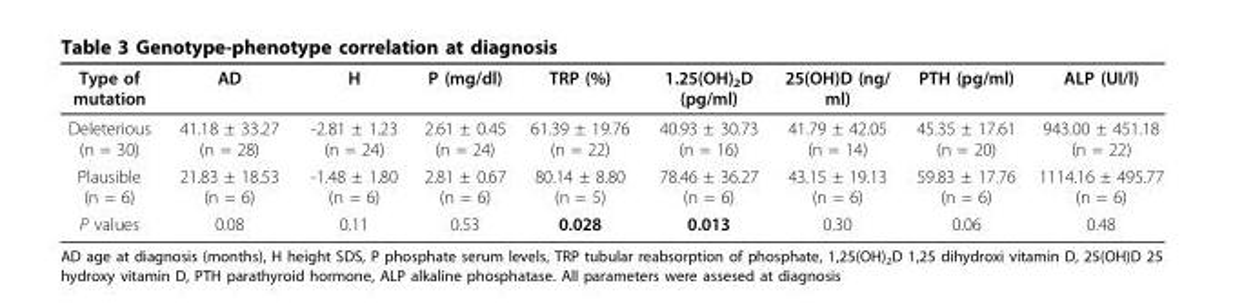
<table><thead><tr><td>Type of mutation</td><td>AD</td><td>H</td><td>P (mg/dl)</td><td>TRP (%)</td><td>1.25(OH)<sub>2</sub>D (pg/ml)</td><td>25(OH)D (ng/ ml)</td><td>PTH (pg/ml)</td><td>ALP (UI/l)</td></tr></thead><tbody><tr><td>Deleterious (n = 30)</td><td>41.18 ± 33.27 (n = 28)</td><td>-2.81 ± 1.23 (n = 24)</td><td>2.61 ± 0.45 (n = 24)</td><td>61.39 ± 19.76 (n = 22)</td><td>40.93 ± 30.73 (n = 16)</td><td>41.79 ± 42.05 (n = 14)</td><td>45.35 ± 17.61 (n = 20)</td><td>943.00 ± 451.18 (n = 22)</td></tr><tr><td>Plausible (n = 6)</td><td>21.83 ± 18.53 (n = 6)</td><td>-1.48 ± 1.80 (n = 6)</td><td>2.81 ± 0.67 (n = 6)</td><td>80.14 ± 8.80 (n = 5)</td><td>78.46 ± 36.27 (n = 6)</td><td>43.15 ± 19.13 (n = 6)</td><td>59.83 ± 17.76 (n = 6)</td><td>1114.16 ± 495.77 (n = 6)</td></tr><tr><td>P values</td><td>0.08</td><td>0.11</td><td>0.53</td><td>0.028</td><td>0.013</td><td>0.30</td><td>0.06</td><td>0.48</td></tr></tbody></table>